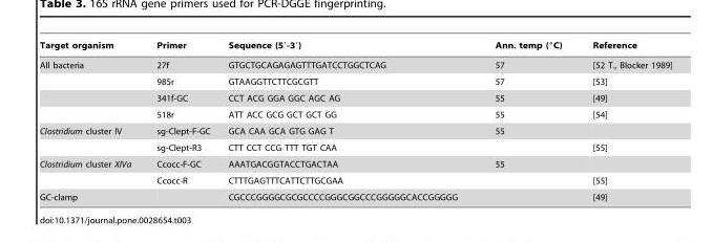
<table><thead><tr><td>Target organism</td><td>Primer</td><td>Sequence (5′-3′)</td><td>Ann. temp (°C)</td><td>Reference</td></tr></thead><tbody><tr><td rowspan="4">All bacteria</td><td>27f</td><td>GTGCTGCAGAGAGTTTGATCCTGGCTCAG</td><td>57</td><td>[52 T., Blocker 1989]</td></tr><tr><td>985r</td><td>GTAAGGTTCTTCGCGTT</td><td>57</td><td>[53]</td></tr><tr><td>341f-GC</td><td>CCT ACG GGA GGC AGC AG</td><td>55</td><td>[49]</td></tr><tr><td>518r</td><td>ATT ACC GCG GCT GCT GG</td><td>55</td><td>[54]</td></tr><tr><td rowspan="2">Clostridium cluster IV</td><td>sg-Clept-F-GC</td><td>GCA CAA GCA GTG GAG T</td><td>55</td><td></td></tr><tr><td>sg-Clept-R3</td><td>CTT CCT CCG TTT TGT CAA</td><td></td><td>[55]</td></tr><tr><td rowspan="2">Clostridium cluster XIVa</td><td>Ccocc-F-GC</td><td>AAATGACGGTACCTGACTAA</td><td>55</td><td></td></tr><tr><td>Ccocc-R</td><td>CTTTGAGTTTCATTCTTGCGAA</td><td></td><td>[55]</td></tr><tr><td>GC-clamp</td><td></td><td>CGCCCGGGGCGCGCCCCGGGCGGCCCGGGGGCACCGGGGG</td><td></td><td>[49]</td></tr></tbody></table>